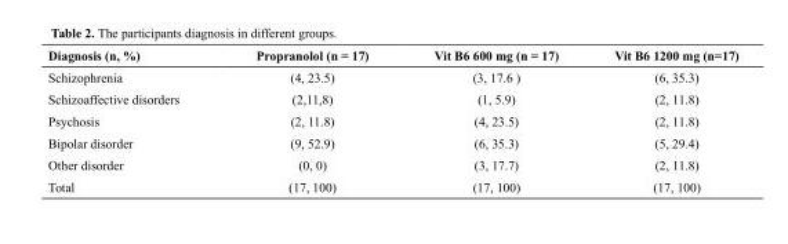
<table><thead><tr><td>Diagnosis (n, %)</td><td>Propranolol (n = 17)</td><td>Vit B6 600 mg (n = 17) Vit B6 1200 mg (n=17)</td></tr></thead><tbody><tr><td>Schizophrenia</td><td>(4, 23.5)</td><td>(3, 17.6 ) (6, 35.3)</td></tr><tr><td>Schizoaffective disorders</td><td>(2,11,8)</td><td>(1, 5.9) (2, 11.8)</td></tr><tr><td>Psychosis</td><td>(2, 11.8)</td><td>(4, 23.5) (2, 11.8)</td></tr><tr><td>Bipolar disorder</td><td>(9, 52.9)</td><td>(6, 35.3) (5, 29.4)</td></tr><tr><td>Other disorder</td><td>(0, 0)</td><td>(3, 17.7) (2, 11.8)</td></tr><tr><td>Total</td><td>(17, 100)</td><td>(17, 100) (17, 100)</td></tr></tbody></table>